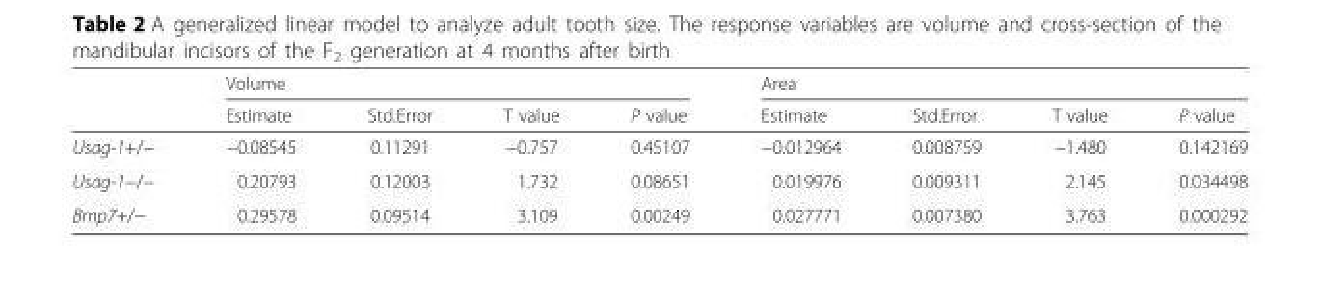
<table><thead><tr><td rowspan="2"></td><td colspan="4">Volume</td><td colspan="4">Area</td></tr><tr><td>Estimate</td><td>Std.Error</td><td>T value</td><td>P value</td><td>Estimate</td><td>Std.Error</td><td>T value</td><td>P value</td></tr></thead><tbody><tr><td>Usag-1+/−</td><td>−0.08545</td><td>0.11291</td><td>−0.757</td><td>0.45107</td><td>−0.012964</td><td>0.008759</td><td>−1.480</td><td>0.142169</td></tr><tr><td>Usag-1−/−</td><td>0.20793</td><td>0.12003</td><td>1.732</td><td>0.08651</td><td>0.019976</td><td>0.009311</td><td>2.145</td><td>0.034498</td></tr><tr><td>Bmp7+/−</td><td>0.29578</td><td>0.09514</td><td>3.109</td><td>0.00249</td><td>0.027771</td><td>0.007380</td><td>3.763</td><td>0.000292</td></tr></tbody></table>